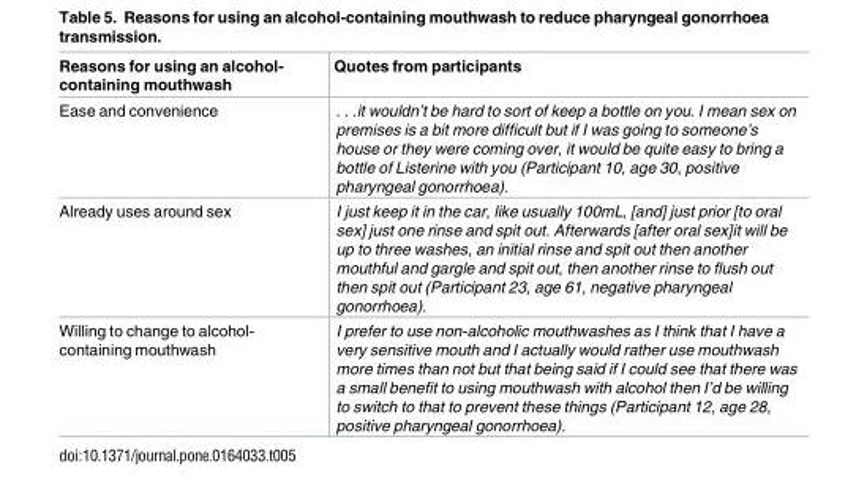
<table><thead><tr><td>Reasons for using an alcohol- containing mouthwash</td><td>Quotes from participants</td></tr></thead><tbody><tr><td>Ease and convenience</td><td>. . .it wouldn’t be hard to sort of keep a bottle on you. I mean sex on premises is a bit more difficult but if I was going to someone’s house or they were coming over, it would be quite easy to bring a bottle of Listerine with you (Participant 10, age 30, positive pharyngeal gonorrhoea).</td></tr><tr><td>Already uses around sex</td><td>I just keep it in the car, like usually 100mL, [and] just prior [to oral sex] just one rinse and spit out. Afterwards [after oral sex]it will be up to three washes, an initial rinse and spit out then another mouthful and gargle and spit out, then another rinse to flush out then spit out (Participant 23, age 61, negative pharyngeal gonorrhoea).</td></tr><tr><td>Willing to change to alcohol- containing mouthwash</td><td>I prefer to use non-alcoholic mouthwashes as I think that I have a very sensitive mouth and I actually would rather use mouthwash more times than not but that being said if I could see that there was a small benefit to using mouthwash with alcohol then I’d be willing to switch to that to prevent these things (Participant 12, age 28, positive pharyngeal gonorrhoea).</td></tr></tbody></table>